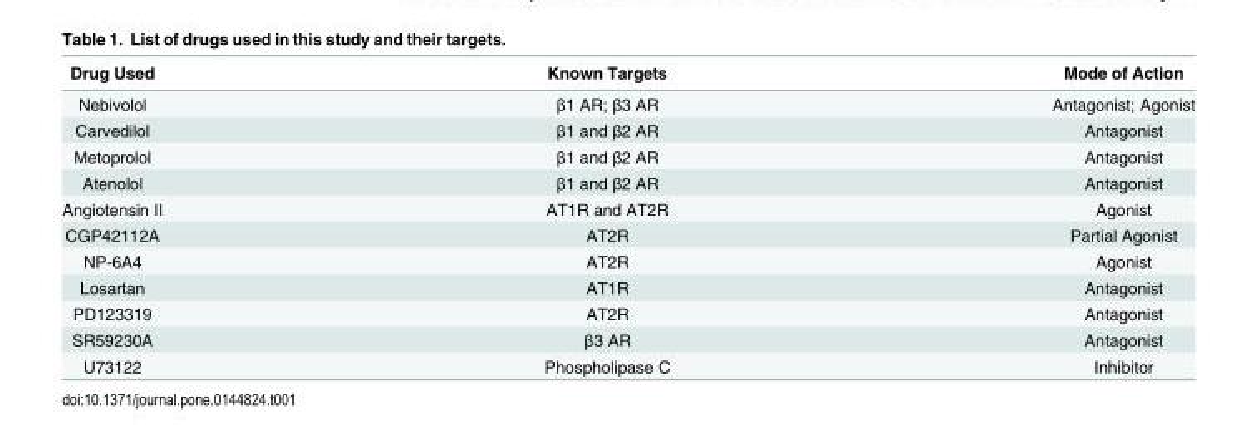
<table><thead><tr><td>Drug Used</td><td>Known Targets</td><td>Mode of Action</td></tr></thead><tbody><tr><td>Nebivolol</td><td>β1 AR; β3 AR</td><td>Antagonist; Agonist</td></tr><tr><td>Carvedilol</td><td>β1 and β2 AR</td><td>Antagonist</td></tr><tr><td>Metoprolol</td><td>β1 and β2 AR</td><td>Antagonist</td></tr><tr><td>Atenolol</td><td>β1 and β2 AR</td><td>Antagonist</td></tr><tr><td>Angiotensin II</td><td>AT1R and AT2R</td><td>Agonist</td></tr><tr><td>CGP42112A</td><td>AT2R</td><td>Partial Agonist</td></tr><tr><td>NP-6A4</td><td>AT2R</td><td>Agonist</td></tr><tr><td>Losartan</td><td>AT1R</td><td>Antagonist</td></tr><tr><td>PD123319</td><td>AT2R</td><td>Antagonist</td></tr><tr><td>SR59230A</td><td>β3 AR</td><td>Antagonist</td></tr><tr><td>U73122</td><td>Phospholipase C</td><td>Inhibitor</td></tr></tbody></table>